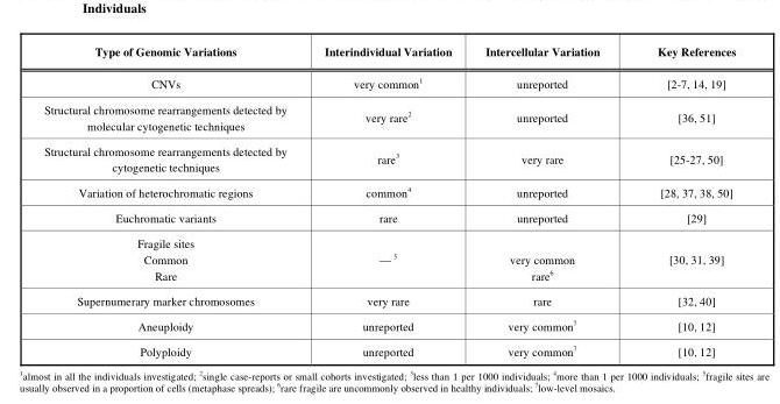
<table><thead><tr><td>Type of Genomic Variations</td><td>Interindividual Variation</td><td>Intercellular Variation</td><td>Key References</td></tr></thead><tbody><tr><td>CNVs</td><td>very common<sup>1</sup></td><td>unreported</td><td>[2-7, 14, 19]</td></tr><tr><td>Structural chromosome rearrangements detected by molecular cytogenetic techniques</td><td>very rare<sup>2</sup></td><td>unreported</td><td>[36, 51]</td></tr><tr><td>Structural chromosome rearrangements detected by cytogenetic techniques</td><td>rare<sup>3</sup></td><td>very rare</td><td>[25-27, 50]</td></tr><tr><td>Variation of heterochromatic regions</td><td>common<sup>4</sup></td><td>unreported</td><td>[28, 37, 38, 50]</td></tr><tr><td>Euchromatic variants</td><td>rare</td><td>unreported</td><td>[29]</td></tr><tr><td>Fragile sites Common Rare</td><td>— 5</td><td>very common rare<sup>6</sup></td><td>[30, 31, 39]</td></tr><tr><td>Supernumerary marker chromosomes</td><td>very rare</td><td>rare</td><td>[32, 40]</td></tr><tr><td>Aneuploidy</td><td>unreported</td><td>very common<sup>7</sup></td><td>[10, 12]</td></tr><tr><td>Polyploidy</td><td>unreported</td><td>very common<sup>7</sup></td><td>[10, 12]</td></tr></tbody></table>